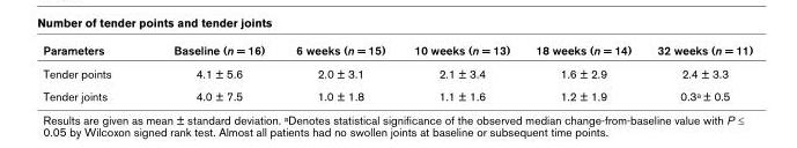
<table><thead><tr><td>Parameters</td><td>Baseline (n = 16)</td><td>6 weeks (n = 15)</td><td>10 weeks (n = 13)</td><td>18 weeks (n = 14)</td><td>32 weeks (n = 11)</td></tr></thead><tbody><tr><td>Tender points</td><td>4.1 ± 5.6</td><td>2.0 ± 3.1</td><td>2.1 ± 3.4</td><td>1.6 ± 2.9</td><td>2.4 ± 3.3</td></tr><tr><td>Tender joints</td><td>4.0 ± 7.5</td><td>1.0 ± 1.8</td><td>1.1 ± 1.6</td><td>1.2 ± 1.9</td><td>0.3a ± 0.5</td></tr></tbody></table>